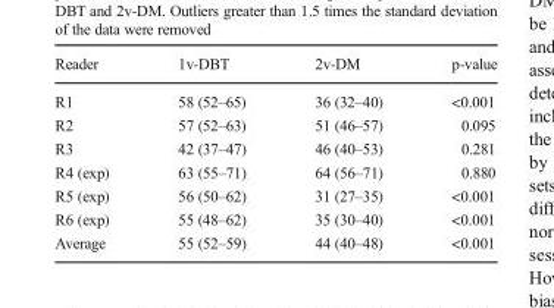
<table><thead><tr><td>Reader</td><td>1v-DBT</td><td>2v-DM</td><td>p-value</td></tr></thead><tbody><tr><td>R1</td><td>58 (52–65)</td><td>36 (32–40)</td><td>&lt;0.001</td></tr><tr><td>R2</td><td>57 (52–63)</td><td>51 (46–57)</td><td>0.095</td></tr><tr><td>R3</td><td>42 (37–47)</td><td>46 (40–53)</td><td>0.281</td></tr><tr><td>R4 (exp)</td><td>63 (55–71)</td><td>64 (56–71)</td><td>0.880</td></tr><tr><td>R5 (exp)</td><td>56 (50–62)</td><td>31 (27–35)</td><td>&lt;0.001</td></tr><tr><td>R6 (exp)</td><td>55 (48–62)</td><td>35 (30–40)</td><td>&lt;0.001</td></tr><tr><td>Average</td><td>55 (52–59)</td><td>44 (40–48)</td><td>&lt;0.001</td></tr></tbody></table>